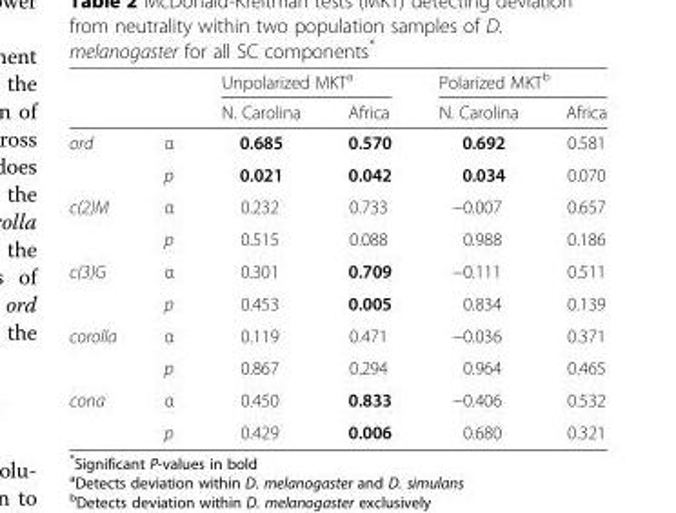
<table><thead><tr><td rowspan="2"></td><td rowspan="2"></td><td colspan="2">Unpolarized MKT<sup>a</sup></td><td colspan="2">Polarized MKT<sup>b</sup></td></tr><tr><td>N. Carolina</td><td>Africa</td><td>N. Carolina</td><td>Africa</td></tr></thead><tbody><tr><td rowspan="2">ord</td><td>α</td><td>0.685</td><td>0.570</td><td>0.692</td><td>0.581</td></tr><tr><td>p</td><td>0.021</td><td>0.042</td><td>0.034</td><td>0.070</td></tr><tr><td rowspan="2">c(2)M</td><td>α</td><td>0.232</td><td>0.733</td><td>−0.007</td><td>0.657</td></tr><tr><td>p</td><td>0.515</td><td>0.088</td><td>0.988</td><td>0.186</td></tr><tr><td rowspan="2">c(3)G</td><td>α</td><td>0.301</td><td>0.709</td><td>−0.111</td><td>0.511</td></tr><tr><td>p</td><td>0.453</td><td>0.005</td><td>0.834</td><td>0.139</td></tr><tr><td rowspan="2">corolla</td><td>α</td><td>0.119</td><td>0.471</td><td>−0.036</td><td>0.371</td></tr><tr><td>p</td><td>0.867</td><td>0.294</td><td>0.964</td><td>0.465</td></tr><tr><td rowspan="2">cona</td><td>α</td><td>0.450</td><td>0.833</td><td>−0.406</td><td>0.532</td></tr><tr><td>p</td><td>0.429</td><td>0.006</td><td>0.680</td><td>0.321</td></tr></tbody></table>